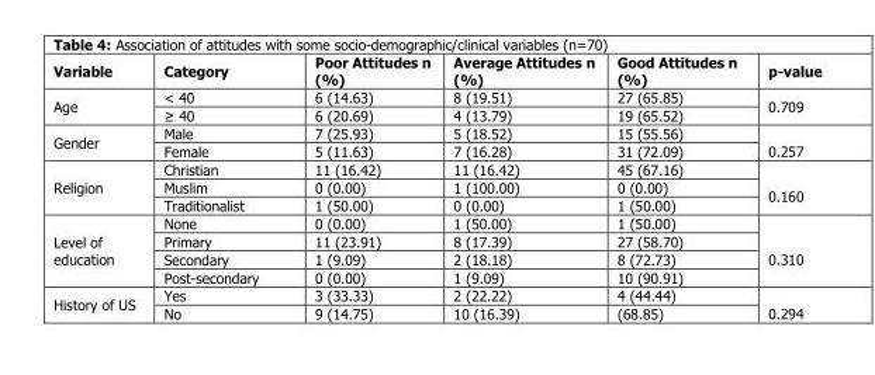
<table><thead><tr><td>Variable</td><td>Category</td><td>Poor Attitudes n (%)</td><td>Average Attitudes n (%)</td><td>Good Attitudes n (%)</td><td>p-value</td></tr></thead><tbody><tr><td rowspan="2">Age</td><td>˂ 40</td><td>6 (14.63)</td><td>8 (19.51)</td><td>27 (65.85)</td><td rowspan="2">0.709</td></tr><tr><td>≥ 40</td><td>6 (20.69)</td><td>4 (13.79)</td><td>19 (65.52)</td></tr><tr><td rowspan="2">Gender</td><td>Male</td><td>7 (25.93)</td><td>5 (18.52)</td><td>15 (55.56)</td><td rowspan="2">0.257</td></tr><tr><td>Female</td><td>5 (11.63)</td><td>7 (16.28)</td><td>31 (72.09)</td></tr><tr><td rowspan="3">Religion</td><td>Christian</td><td>11 (16.42)</td><td>11 (16.42)</td><td>45 (67.16)</td><td rowspan="3">0.160</td></tr><tr><td>Muslim</td><td>0 (0.00)</td><td>1 (100.00)</td><td>0 (0.00)</td></tr><tr><td>Traditionalist</td><td>1 (50.00)</td><td>0 (0.00)</td><td>1 (50.00)</td></tr><tr><td rowspan="4">Level of education</td><td>None</td><td>0 (0.00)</td><td>1 (50.00)</td><td>1 (50.00)</td><td rowspan="4">0.310</td></tr><tr><td>Primary</td><td>11 (23.91)</td><td>8 (17.39)</td><td>27 (58.70)</td></tr><tr><td>Secondary</td><td>1 (9.09)</td><td>2 (18.18)</td><td>8 (72.73)</td></tr><tr><td>Post-secondary</td><td>0 (0.00)</td><td>1 (9.09)</td><td>10 (90.91)</td></tr><tr><td rowspan="2">History of US</td><td>Yes</td><td>3 (33.33)</td><td>2 (22.22)</td><td>4 (44.44)</td><td rowspan="2">0.294</td></tr><tr><td>No</td><td>9 (14.75)</td><td>10 (16.39)</td><td>(68.85)</td></tr></tbody></table>